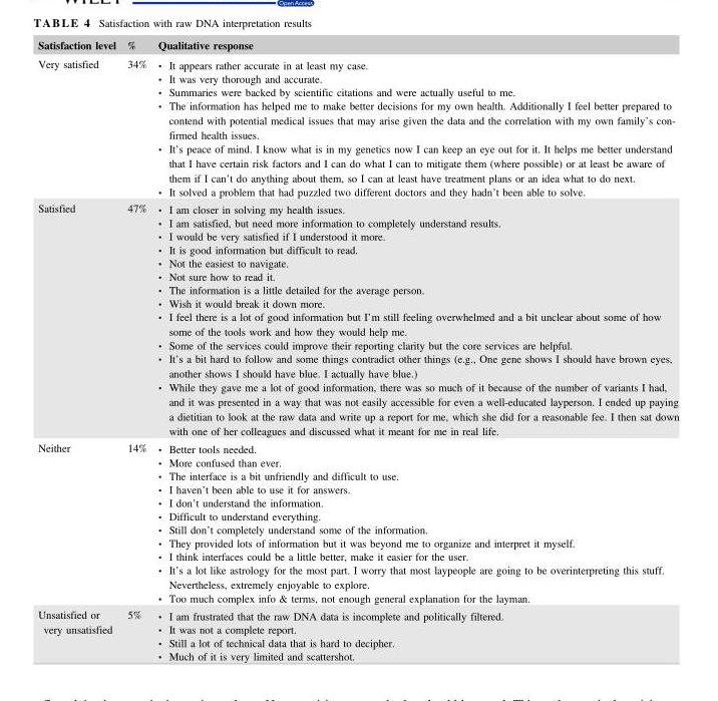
<table><thead><tr><td>Satisfaction level</td><td>%</td><td>Qualitative response</td></tr></thead><tbody><tr><td>Very satisfied</td><td>34%</td><td>• It appears rather accurate in at least my case. • It was very thorough and accurate. • Summaries were backed by scientific citations and were actually useful to me. • The information has helped me to make better decisions for my own health. Additionally I feel better prepared to contend with potential medical issues that may arise given the data and the correlation with my own family’s con- firmed health issues. • It’s peace of mind. I know what is in my genetics now I can keep an eye out for it. It helps me better understand that I have certain risk factors and I can do what I can to mitigate them (where possible) or at least be aware of them if I can’t do anything about them, so I can at least have treatment plans or an idea what to do next. • It solved a problem that had puzzled two different doctors and they hadn’t been able to solve.</td></tr><tr><td>Satisfied</td><td>47%</td><td>• I am closer in solving my health issues. • I am satisfied, but need more information to completely understand results. • I would be very satisfied if I understood it more. • It is good information but difficult to read. • Not the easiest to navigate. • Not sure how to read it. • The information is a little detailed for the average person. • Wish it would break it down more. • I feel there is a lot of good information but I’m still feeling overwhelmed and a bit unclear about some of how some of the tools work and how they would help me. • Some of the services could improve their reporting clarity but the core services are helpful. • It’s a bit hard to follow and some things contradict other things (e.g., One gene shows I should have brown eyes, another shows I should have blue. I actually have blue.) • While they gave me a lot of good information, there was so much of it because of the number of variants I had, and it was presented in a way that was not easily accessible for even a well-educated layperson. I ended up paying a dietitian to look at the raw data and write up a report for me, which she did for a reasonable fee. I then sat down with one of her colleagues and discussed what it meant for me in real life.</td></tr><tr><td>Neither</td><td>14%</td><td>• Better tools needed. • More confused than ever. • The interface is a bit unfriendly and difficult to use. • I haven’t been able to use it for answers. • I don’t understand the information. • Difficult to understand everything. • Still don’t completely understand some of the information. • They provided lots of information but it was beyond me to organize and interpret it myself. • I think interfaces could be a little better, make it easier for the user. • It’s a lot like astrology for the most part. I worry that most laypeople are going to be overinterpreting this stuff. Nevertheless, extremely enjoyable to explore. • Too much complex info &amp; terms, not enough general explanation for the layman.</td></tr><tr><td>Unsatisfied or very unsatisfied</td><td>5%</td><td>• I am frustrated that the raw DNA data is incomplete and politically filtered. • It was not a complete report. • Still a lot of technical data that is hard to decipher. • Much of it is very limited and scattershot.</td></tr></tbody></table>